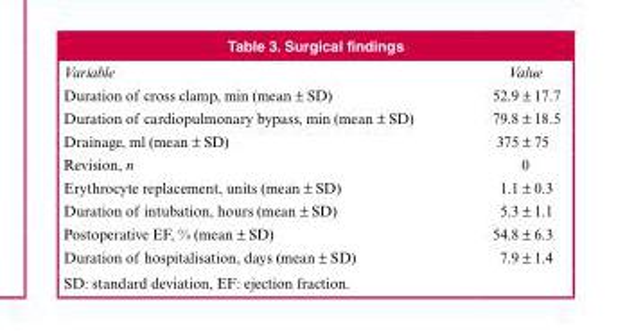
<table><thead><tr><td>Variable</td><td>Value</td></tr></thead><tbody><tr><td>Duration of cross clamp, min (mean ± SD)</td><td>52.9 ± 17.7</td></tr><tr><td>Duration of cardiopulmonary bypass, min (mean ± SD)</td><td>79.8 ± 18.5</td></tr><tr><td>Drainage, ml (mean ± SD)</td><td>375 ± 75</td></tr><tr><td>Revision, n</td><td>0</td></tr><tr><td>Erythrocyte replacement, units (mean ± SD)</td><td>1.1 ± 0.3</td></tr><tr><td>Duration of intubation, hours (mean ± SD)</td><td>5.3 ± 1.1</td></tr><tr><td>Postoperative EF, % (mean ± SD)</td><td>54.8 ± 6.3</td></tr><tr><td>Duration of hospitalisation, days (mean ± SD)</td><td>7.9 ± 1.4</td></tr></tbody></table>